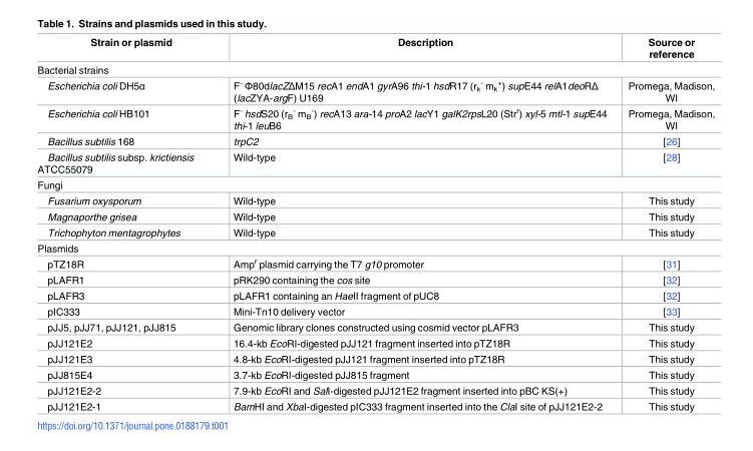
<table><thead><tr><td>Strain or plasmid</td><td>Description</td><td>Source or reference</td></tr></thead><tbody><tr><td colspan="3">Bacterial strains</td></tr><tr><td>Escherichia coli DH5α</td><td>F<sup>-</sup> Φ80dlacZΔM15 recA1 endA1 gyrA96 thi-1 hsdR17 (r<sub>k</sub> <sup>-</sup> m<sub>k</sub> <sup>+</sup>) supE44 relA1deoRΔ (lacZYA-argF) U169</td><td>Promega, Madison, WI</td></tr><tr><td>Escherichia coli HB101</td><td>F<sup>-</sup> hsdS20 (r<sub>B</sub> <sup>-</sup> m<sub>B</sub> <sup>-</sup>) recA13 ara-14 proA2 lacY1 galK2rpsL20 (Str<sup>r</sup>) xyl-5 mtl-1 supE44 thi-1 leuB6</td><td>Promega, Madison, WI</td></tr><tr><td>Bacillus subtilis 168</td><td>trpC2</td><td>[26]</td></tr><tr><td>Bacillus subtilis subsp. krictiensis ATCC55079</td><td>Wild-type</td><td>[28]</td></tr><tr><td colspan="3">Fungi</td></tr><tr><td>Fusarium oxysporum</td><td>Wild-type</td><td>This study</td></tr><tr><td>Magnaporthe grisea</td><td>Wild-type</td><td>This study</td></tr><tr><td>Trichophyton mentagrophytes</td><td>Wild-type</td><td>This study</td></tr><tr><td colspan="3">Plasmids</td></tr><tr><td>pTZ18R</td><td>Amp<sup>r</sup> plasmid carrying the T7 g10 promoter</td><td>[31]</td></tr><tr><td>pLAFR1</td><td>pRK290 containing the cos site</td><td>[32]</td></tr><tr><td>pLAFR3</td><td>pLAFR1 containing an HaeII fragment of pUC8</td><td>[32]</td></tr><tr><td>pIC333</td><td>Mini-Tn10 delivery vector</td><td>[33]</td></tr><tr><td>pJJ5, pJJ71, pJJ121, pJJ815</td><td>Genomic library clones constructed using cosmid vector pLAFR3</td><td>This study</td></tr><tr><td>pJJ121E2</td><td>16.4-kb EcoRI-digested pJJ121 fragment inserted into pTZ18R</td><td>This study</td></tr><tr><td>pJJ121E3</td><td>4.8-kb EcoRI-digested pJJ121 fragment inserted into pTZ18R</td><td>This study</td></tr><tr><td>pJJ815E4</td><td>3.7-kb EcoRI-digested pJJ815 fragment</td><td>This study</td></tr><tr><td>pJJ121E2-2</td><td>7.9-kb EcoRI and SalI-digested pJJ121E2 fragment inserted into pBC KS(+)</td><td>This study</td></tr><tr><td>pJJ121E2-1</td><td>BamHI and XbaI-digested pIC333 fragment inserted into the ClaI site of pJJ121E2-2</td><td>This study</td></tr></tbody></table>